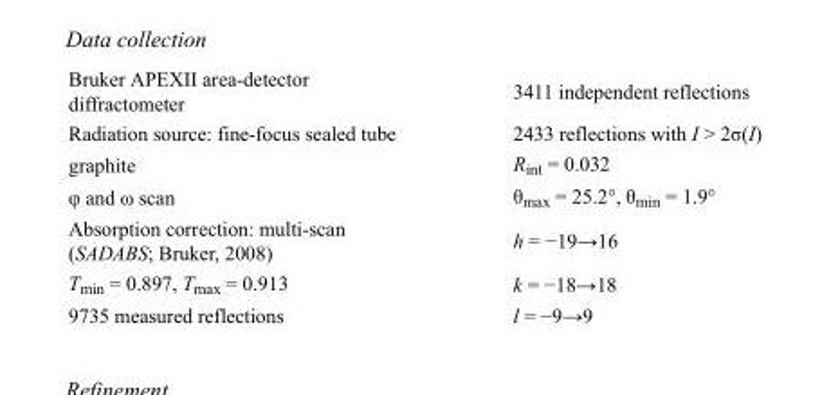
<table><tbody><tr><td>Bruker APEXII area-detector diffractometer</td><td>3411 independent reflections</td></tr><tr><td>Radiation source: fine-focus sealed tube</td><td>2433 reflections with I &gt; 2σ(I)</td></tr><tr><td>graphite</td><td>R<sub>int</sub> = 0.032</td></tr><tr><td>φ and ω scan</td><td>θ<sub>max</sub> = 25.2°, θ<sub>min</sub> = 1.9°</td></tr><tr><td>Absorption correction: multi-scan (SADABS; Bruker, 2008)</td><td>h = −19→16</td></tr><tr><td>T<sub>min</sub> = 0.897, T<sub>max</sub> = 0.913</td><td>k = −18→18</td></tr><tr><td>9735 measured reflections</td><td>l = −9→9</td></tr></tbody></table>